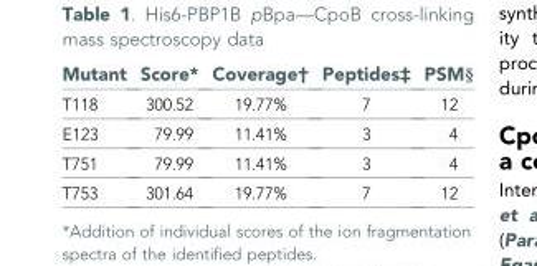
<table><thead><tr><td>Mutant</td><td>Score*</td><td>Coverage†</td><td>Peptides‡</td><td>PSM§</td></tr></thead><tbody><tr><td>T118</td><td>300.52</td><td>19.77%</td><td>7</td><td>12</td></tr><tr><td>E123</td><td>79.99</td><td>11.41%</td><td>3</td><td>4</td></tr><tr><td>T751</td><td>79.99</td><td>11.41%</td><td>3</td><td>4</td></tr><tr><td>T753</td><td>301.64</td><td>19.77%</td><td>7</td><td>12</td></tr></tbody></table>